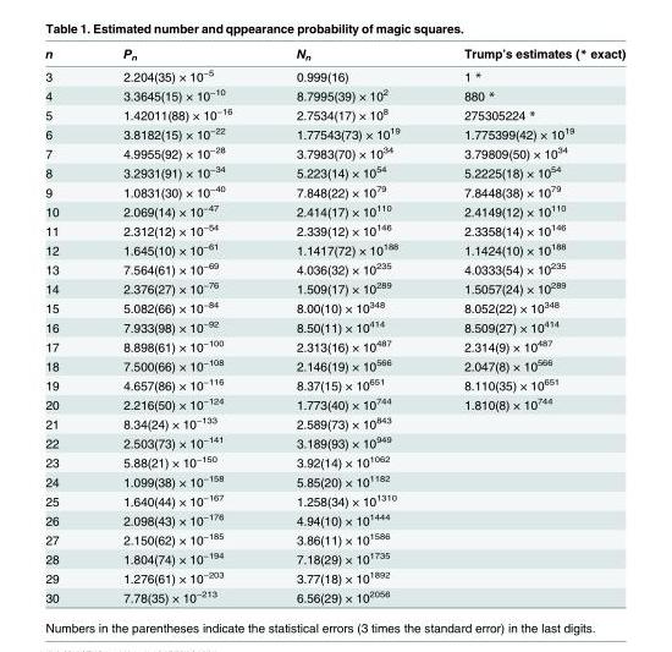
<table><thead><tr><td>n</td><td>P<sub>n</sub></td><td>N<sub>n</sub></td><td>Trump’s estimates (* exact)</td></tr></thead><tbody><tr><td>3</td><td>2.204(35) × 10<sup>−5</sup></td><td>0.999(16)</td><td>1 *</td></tr><tr><td>4</td><td>3.3645(15) × 10<sup>−10</sup></td><td>8.7995(39) × 10<sup>2</sup></td><td>880 *</td></tr><tr><td>5</td><td>1.42011(88) × 10<sup>−16</sup></td><td>2.7534(17) × 10<sup>8</sup></td><td>275305224 *</td></tr><tr><td>6</td><td>3.8182(15) × 10<sup>−22</sup></td><td>1.77543(73) × 10<sup>19</sup></td><td>1.775399(42) × 10<sup>19</sup></td></tr><tr><td>7</td><td>4.9955(92) × 10<sup>−28</sup></td><td>3.7983(70) × 10<sup>34</sup></td><td>3.79809(50) × 10<sup>34</sup></td></tr><tr><td>8</td><td>3.2931(91) × 10<sup>−34</sup></td><td>5.223(14) × 10<sup>54</sup></td><td>5.2225(18) × 10<sup>54</sup></td></tr><tr><td>9</td><td>1.0831(30) × 10<sup>−40</sup></td><td>7.848(22) × 10<sup>79</sup></td><td>7.8448(38) × 10<sup>79</sup></td></tr><tr><td>10</td><td>2.069(14) × 10<sup>−47</sup></td><td>2.414(17) × 10<sup>110</sup></td><td>2.4149(12) × 10<sup>110</sup></td></tr><tr><td>11</td><td>2.312(12) × 10<sup>−54</sup></td><td>2.339(12) × 10<sup>146</sup></td><td>2.3358(14) × 10<sup>146</sup></td></tr><tr><td>12</td><td>1.645(10) × 10<sup>−61</sup></td><td>1.1417(72) × 10<sup>188</sup></td><td>1.1424(10) × 10<sup>188</sup></td></tr><tr><td>13</td><td>7.564(61) × 10<sup>−69</sup></td><td>4.036(32) × 10<sup>235</sup></td><td>4.0333(54) × 10<sup>235</sup></td></tr><tr><td>14</td><td>2.376(27) × 10<sup>−76</sup></td><td>1.509(17) × 10<sup>289</sup></td><td>1.5057(24) × 10<sup>289</sup></td></tr><tr><td>15</td><td>5.082(66) × 10<sup>−84</sup></td><td>8.00(10) × 10<sup>348</sup></td><td>8.052(22) × 10<sup>348</sup></td></tr><tr><td>16</td><td>7.933(98) × 10<sup>−92</sup></td><td>8.50(11) × 10<sup>414</sup></td><td>8.509(27) × 10<sup>414</sup></td></tr><tr><td>17</td><td>8.898(61) × 10<sup>−100</sup></td><td>2.313(16) × 10<sup>487</sup></td><td>2.314(9) × 10<sup>487</sup></td></tr><tr><td>18</td><td>7.500(66) × 10<sup>−108</sup></td><td>2.146(19) × 10<sup>566</sup></td><td>2.047(8) × 10<sup>566</sup></td></tr><tr><td>19</td><td>4.657(86) × 10<sup>−116</sup></td><td>8.37(15) × 10<sup>651</sup></td><td>8.110(35) × 10<sup>651</sup></td></tr><tr><td>20</td><td>2.216(50) × 10<sup>−124</sup></td><td>1.773(40) × 10<sup>744</sup></td><td>1.810(8) × 10<sup>744</sup></td></tr><tr><td>21</td><td>8.34(24) × 10<sup>−133</sup></td><td>2.589(73) × 10<sup>843</sup></td><td></td></tr><tr><td>22</td><td>2.503(73) × 10<sup>−141</sup></td><td>3.189(93) × 10<sup>949</sup></td><td></td></tr><tr><td>23</td><td>5.88(21) × 10<sup>−150</sup></td><td>3.92(14) × 10<sup>1062</sup></td><td></td></tr><tr><td>24</td><td>1.099(38) × 10<sup>−158</sup></td><td>5.85(20) × 10<sup>1182</sup></td><td></td></tr><tr><td>25</td><td>1.640(44) × 10<sup>−167</sup></td><td>1.258(34) × 10<sup>1310</sup></td><td></td></tr><tr><td>26</td><td>2.098(43) × 10<sup>−176</sup></td><td>4.94(10) × 10<sup>1444</sup></td><td></td></tr><tr><td>27</td><td>2.150(62) × 10<sup>−185</sup></td><td>3.86(11) × 10<sup>1586</sup></td><td></td></tr><tr><td>28</td><td>1.804(74) × 10<sup>−194</sup></td><td>7.18(29) × 10<sup>1735</sup></td><td></td></tr><tr><td>29</td><td>1.276(61) × 10<sup>−203</sup></td><td>3.77(18) × 10<sup>1892</sup></td><td></td></tr><tr><td>30</td><td>7.78(35) × 10<sup>−213</sup></td><td>6.56(29) × 10<sup>2056</sup></td><td></td></tr></tbody></table>